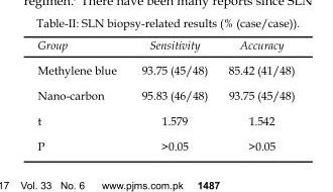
<table><thead><tr><td>Group</td><td>Sensitivity</td><td>Accuracy</td></tr></thead><tbody><tr><td>Methylene blue</td><td>93.75 (45/48)</td><td>85.42 (41/48)</td></tr><tr><td>Nano-carbon</td><td>95.83 (46/48)</td><td>93.75 (45/48)</td></tr><tr><td>t</td><td>1.579</td><td>1.542</td></tr><tr><td>P</td><td>&gt;0.05</td><td>&gt;0.05</td></tr></tbody></table>